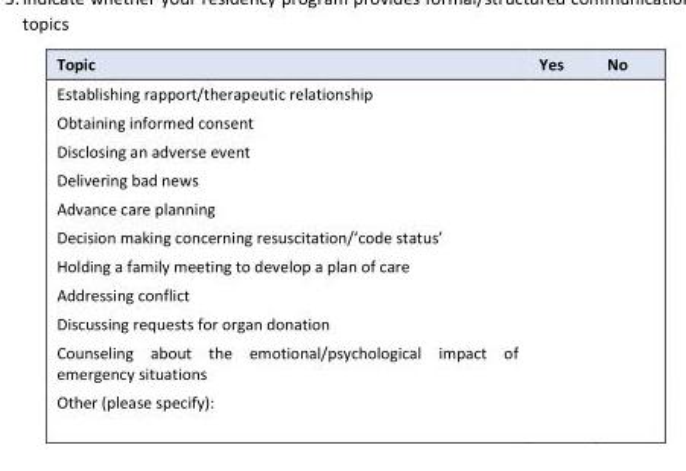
<table><thead><tr><td>Topic</td><td>Yes</td><td>No</td></tr></thead><tbody><tr><td colspan="3">Establishing rapport/therapeutic relationship</td></tr><tr><td colspan="3">Obtaining informed consent</td></tr><tr><td colspan="3">Disclosing an adverse event</td></tr><tr><td colspan="3">Delivering bad news</td></tr><tr><td colspan="3">Advance care planning</td></tr><tr><td colspan="3">Decision making concerning resuscitation/‘code status’</td></tr><tr><td colspan="3">Holding a family meeting to develop a plan of care</td></tr><tr><td colspan="3">Addressing conflict</td></tr><tr><td colspan="3">Discussing requests for organ donation</td></tr><tr><td colspan="3">Counseling about the emotional/psychological impact of emergency situations</td></tr><tr><td>Other (please specify):</td><td></td><td></td></tr></tbody></table>